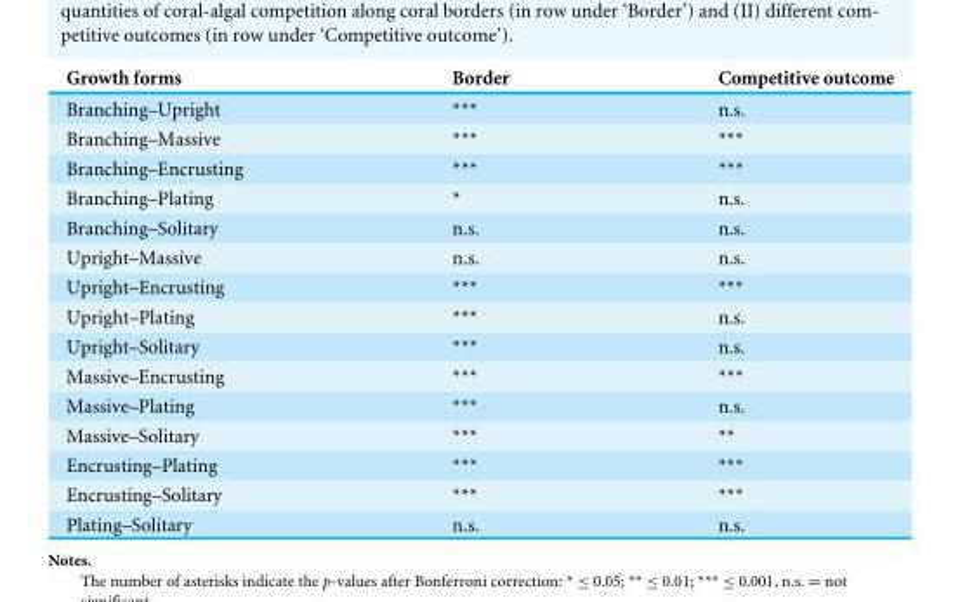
<table><thead><tr><td>Growth forms</td><td>Border</td><td>Competitive outcome</td></tr></thead><tbody><tr><td>Branching–Upright</td><td>***</td><td>n.s.</td></tr><tr><td>Branching–Massive</td><td>***</td><td>***</td></tr><tr><td>Branching–Encrusting</td><td>***</td><td>***</td></tr><tr><td>Branching–Plating</td><td>*</td><td>n.s.</td></tr><tr><td>Branching–Solitary</td><td>n.s.</td><td>n.s.</td></tr><tr><td>Upright–Massive</td><td>n.s.</td><td>n.s.</td></tr><tr><td>Upright–Encrusting</td><td>***</td><td>***</td></tr><tr><td>Upright–Plating</td><td>***</td><td>n.s.</td></tr><tr><td>Upright–Solitary</td><td>***</td><td>n.s.</td></tr><tr><td>Massive–Encrusting</td><td>***</td><td>***</td></tr><tr><td>Massive–Plating</td><td>***</td><td>n.s.</td></tr><tr><td>Massive–Solitary</td><td>***</td><td>**</td></tr><tr><td>Encrusting–Plating</td><td>***</td><td>***</td></tr><tr><td>Encrusting–Solitary</td><td>***</td><td>***</td></tr><tr><td>Plating–Solitary</td><td>n.s.</td><td>n.s.</td></tr></tbody></table>